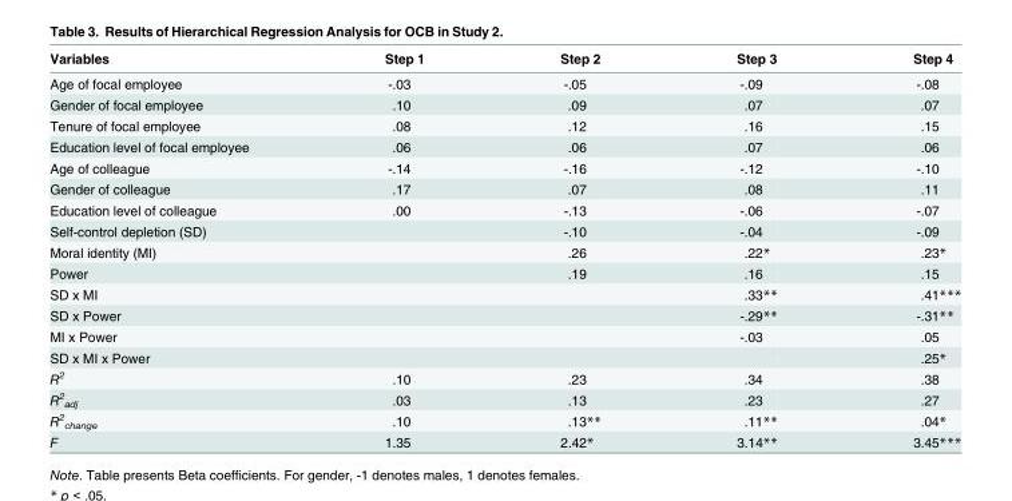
<table><thead><tr><td>Variables</td><td>Step 1</td><td>Step 2</td><td>Step 3</td><td>Step 4</td></tr></thead><tbody><tr><td>Age of focal employee</td><td>-.03</td><td>-.05</td><td>-.09</td><td>-.08</td></tr><tr><td>Gender of focal employee</td><td>.10</td><td>.09</td><td>.07</td><td>.07</td></tr><tr><td>Tenure of focal employee</td><td>.08</td><td>.12</td><td>.16</td><td>.15</td></tr><tr><td>Education level of focal employee</td><td>.06</td><td>.06</td><td>.07</td><td>.06</td></tr><tr><td>Age of colleague</td><td>-.14</td><td>-.16</td><td>-.12</td><td>-.10</td></tr><tr><td>Gender of colleague</td><td>.17</td><td>.07</td><td>.08</td><td>.11</td></tr><tr><td>Education level of colleague</td><td>.00</td><td>-.13</td><td>-.06</td><td>-.07</td></tr><tr><td>Self-control depletion (SD)</td><td></td><td>-.10</td><td>-.04</td><td>-.09</td></tr><tr><td>Moral identity (MI)</td><td></td><td>.26</td><td>.22*</td><td>.23*</td></tr><tr><td>Power</td><td></td><td>.19</td><td>.16</td><td>.15</td></tr><tr><td>SD x MI</td><td></td><td></td><td>.33**</td><td>.41***</td></tr><tr><td>SD x Power</td><td></td><td></td><td>-.29**</td><td>-.31**</td></tr><tr><td>MI x Power</td><td></td><td></td><td>-.03</td><td>.05</td></tr><tr><td>SD x MI x Power</td><td></td><td></td><td></td><td>.25*</td></tr><tr><td>R<sup>2</sup></td><td>.10</td><td>.23</td><td>.34</td><td>.38</td></tr><tr><td>R<sup>2</sup> <sub>adj</sub></td><td>.03</td><td>.13</td><td>.23</td><td>.27</td></tr><tr><td>R<sup>2</sup> <sub>change</sub></td><td>.10</td><td>.13**</td><td>.11**</td><td>.04*</td></tr><tr><td>F</td><td>1.35</td><td>2.42*</td><td>3.14**</td><td>3.45***</td></tr></tbody></table>